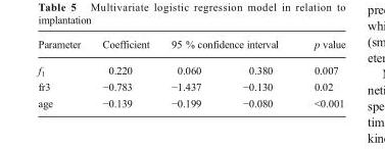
<table><thead><tr><td rowspan="2">Parameter f<sub>1</sub></td><td rowspan="2">Coefficient 0.220</td><td colspan="2">95 % confidence interval</td><td rowspan="2">p value 0.007</td></tr><tr><td>0.060</td><td>0.380</td></tr></thead><tbody><tr><td>fr3</td><td>−0.783</td><td>−1.437</td><td>−0.130</td><td>0.02</td></tr><tr><td>age</td><td>−0.139</td><td>−0.199</td><td>−0.080</td><td>&lt;0.001</td></tr></tbody></table>